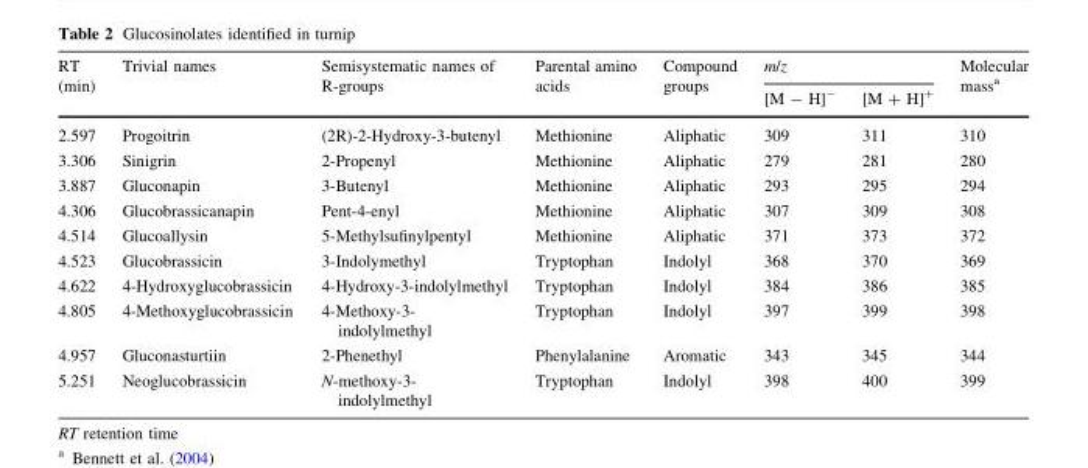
<table><thead><tr><td rowspan="2">RT (min)</td><td rowspan="2">Trivial names</td><td rowspan="2">Semisystematic names of R-groups</td><td rowspan="2">Parental amino acids</td><td rowspan="2">Compound groups</td><td colspan="2">m/z</td><td rowspan="2">Molecular mass<sup>a</sup></td></tr><tr><td>[M - H]<sup>-</sup></td><td>[M + H]<sup>+</sup></td></tr></thead><tbody><tr><td>2.597</td><td>Progoitrin</td><td>(2R)-2-Hydroxy-3-butenyl</td><td>Methionine</td><td>Aliphatic</td><td>309</td><td>311</td><td>310</td></tr><tr><td>3.306</td><td>Sinigrin</td><td>2-Propenyl</td><td>Methionine</td><td>Aliphatic</td><td>279</td><td>281</td><td>280</td></tr><tr><td>3.887</td><td>Gluconapin</td><td>3-Butenyl</td><td>Methionine</td><td>Aliphatic</td><td>293</td><td>295</td><td>294</td></tr><tr><td>4.306</td><td>Glucobrassicanapin</td><td>Pent-4-enyl</td><td>Methionine</td><td>Aliphatic</td><td>307</td><td>309</td><td>308</td></tr><tr><td>4.514</td><td>Glucoallysin</td><td>5-Methylsufinylpentyl</td><td>Methionine</td><td>Aliphatic</td><td>371</td><td>373</td><td>372</td></tr><tr><td>4.523</td><td>Glucobrassicin</td><td>3-Indolymethyl</td><td>Tryptophan</td><td>Indolyl</td><td>368</td><td>370</td><td>369</td></tr><tr><td>4.622</td><td>4-Hydroxyglucobrassicin</td><td>4-Hydroxy-3-indolylmethyl</td><td>Tryptophan</td><td>Indolyl</td><td>384</td><td>386</td><td>385</td></tr><tr><td>4.805</td><td>4-Methoxyglucobrassicin</td><td>4-Methoxy-3- indolylmethyl</td><td>Tryptophan</td><td>Indolyl</td><td>397</td><td>399</td><td>398</td></tr><tr><td>4.957</td><td>Gluconasturtiin</td><td>2-Phenethyl</td><td>Phenylalanine</td><td>Aromatic</td><td>343</td><td>345</td><td>344</td></tr><tr><td>5.251</td><td>Neoglucobrassicin</td><td>N-methoxy-3- indolylmethyl</td><td>Tryptophan</td><td>Indolyl</td><td>398</td><td>400</td><td>399</td></tr></tbody></table>